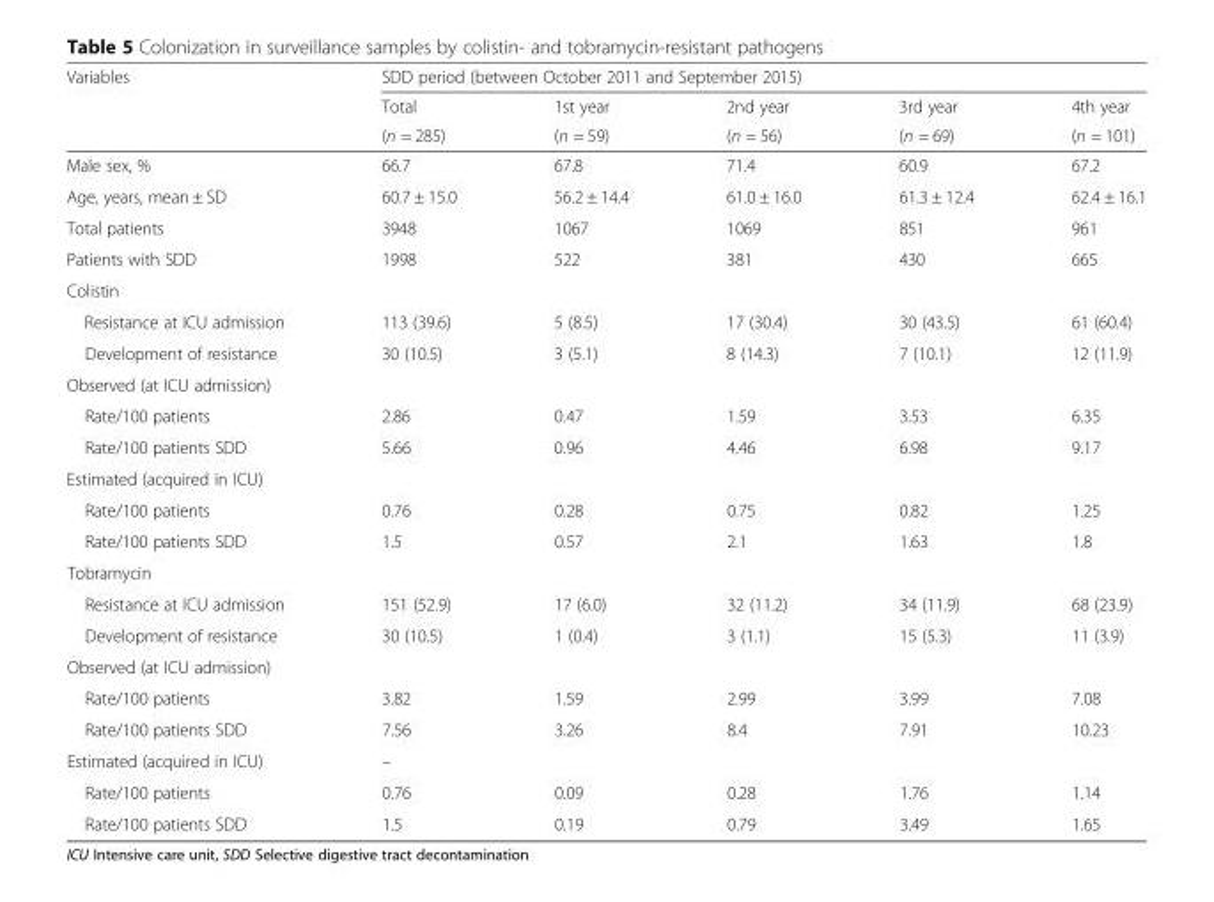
<table><thead><tr><td rowspan="3">Variables</td><td colspan="5">SDD period (between October 2011 and September 2015)</td></tr><tr><td rowspan="2">Total (n = 285)</td><td rowspan="2">1st year (n = 59)</td><td rowspan="2">2nd year (n = 56)</td><td rowspan="2">3rd year (n = 69)</td><td rowspan="2">4th year (n = 101)</td></tr><tr></tr></thead><tbody><tr><td>Male sex, %</td><td>66.7</td><td>67.8</td><td>71.4</td><td>60.9</td><td>67.2</td></tr><tr><td>Age, years, mean ± SD</td><td>60.7 ± 15.0</td><td>56.2 ± 14.4</td><td>61.0 ± 16.0</td><td>61.3 ± 12.4</td><td>62.4 ± 16.1</td></tr><tr><td>Total patients</td><td>3948</td><td>1067</td><td>1069</td><td>851</td><td>961</td></tr><tr><td>Patients with SDD</td><td>1998</td><td>522</td><td>381</td><td>430</td><td>665</td></tr><tr><td colspan="6">Colistin</td></tr><tr><td>Resistance at ICU admission</td><td>113 (39.6)</td><td>5 (8.5)</td><td>17 (30.4)</td><td>30 (43.5)</td><td>61 (60.4)</td></tr><tr><td>Development of resistance</td><td>30 (10.5)</td><td>3 (5.1)</td><td>8 (14.3)</td><td>7 (10.1)</td><td>12 (11.9)</td></tr><tr><td colspan="6">Observed (at ICU admission)</td></tr><tr><td>Rate/100 patients</td><td>2.86</td><td>0.47</td><td>1.59</td><td>3.53</td><td>6.35</td></tr><tr><td>Rate/100 patients SDD</td><td>5.66</td><td>0.96</td><td>4.46</td><td>6.98</td><td>9.17</td></tr><tr><td colspan="6">Estimated (acquired in ICU)</td></tr><tr><td>Rate/100 patients</td><td>0.76</td><td>0.28</td><td>0.75</td><td>0.82</td><td>1.25</td></tr><tr><td>Rate/100 patients SDD</td><td>1.5</td><td>0.57</td><td>2.1</td><td>1.63</td><td>1.8</td></tr><tr><td colspan="6">Tobramycin</td></tr><tr><td>Resistance at ICU admission</td><td>151 (52.9)</td><td>17 (6.0)</td><td>32 (11.2)</td><td>34 (11.9)</td><td>68 (23.9)</td></tr><tr><td>Development of resistance</td><td>30 (10.5)</td><td>1 (0.4)</td><td>3 (1.1)</td><td>15 (5.3)</td><td>11 (3.9)</td></tr><tr><td colspan="6">Observed (at ICU admission)</td></tr><tr><td>Rate/100 patients</td><td>3.82</td><td>1.59</td><td>2.99</td><td>3.99</td><td>7.08</td></tr><tr><td>Rate/100 patients SDD</td><td>7.56</td><td>3.26</td><td>8.4</td><td>7.91</td><td>10.23</td></tr><tr><td>Estimated (acquired in ICU)</td><td>–</td><td></td><td></td><td></td><td></td></tr><tr><td>Rate/100 patients</td><td>0.76</td><td>0.09</td><td>0.28</td><td>1.76</td><td>1.14</td></tr><tr><td>Rate/100 patients SDD</td><td>1.5</td><td>0.19</td><td>0.79</td><td>3.49</td><td>1.65</td></tr></tbody></table>